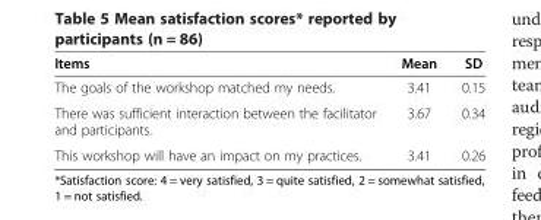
<table><thead><tr><td>Items</td><td>Mean</td><td>SD</td></tr></thead><tbody><tr><td>The goals of the workshop matched my needs.</td><td>3.41</td><td>0.15</td></tr><tr><td>There was sufficient interaction between the facilitator and participants.</td><td>3.67</td><td>0.34</td></tr><tr><td>This workshop will have an impact on my practices.</td><td>3.41</td><td>0.26</td></tr></tbody></table>